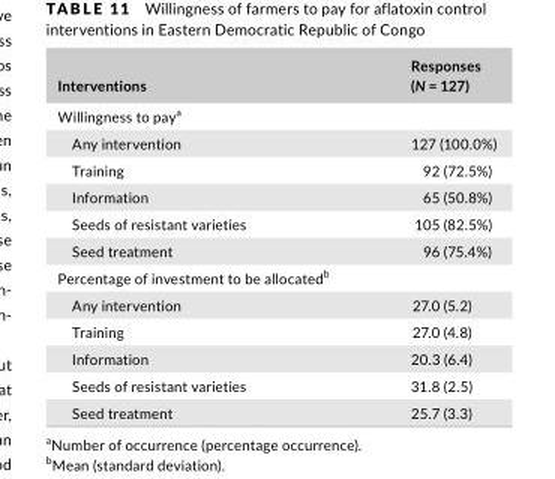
<table><thead><tr><td>Interventions</td><td>Responses (N = 127)</td></tr></thead><tbody><tr><td colspan="2">Willingness to pay<sup>a</sup></td></tr><tr><td>Any intervention</td><td>127 (100.0%)</td></tr><tr><td>Training</td><td>92 (72.5%)</td></tr><tr><td>Information</td><td>65 (50.8%)</td></tr><tr><td>Seeds of resistant varieties</td><td>105 (82.5%)</td></tr><tr><td>Seed treatment</td><td>96 (75.4%)</td></tr><tr><td colspan="2">Percentage of investment to be allocated<sup>b</sup></td></tr><tr><td>Any intervention</td><td>27.0 (5.2)</td></tr><tr><td>Training</td><td>27.0 (4.8)</td></tr><tr><td>Information</td><td>20.3 (6.4)</td></tr><tr><td>Seeds of resistant varieties</td><td>31.8 (2.5)</td></tr><tr><td>Seed treatment</td><td>25.7 (3.3)</td></tr></tbody></table>